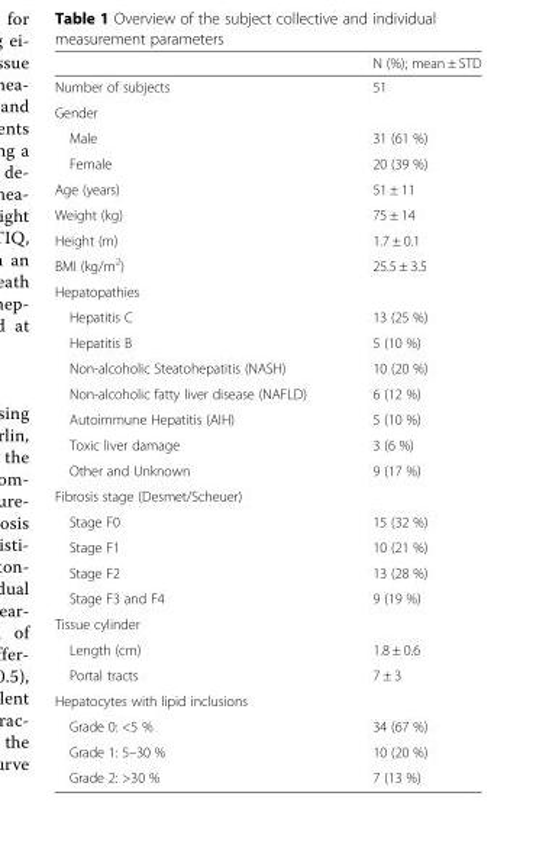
<table><thead><tr><td></td><td>N (%); mean ± STD</td></tr></thead><tbody><tr><td>Number of subjects</td><td>51</td></tr><tr><td colspan="2">Gender</td></tr><tr><td>Male</td><td>31 (61 %)</td></tr><tr><td>Female</td><td>20 (39 %)</td></tr><tr><td>Age (years)</td><td>51 ± 11</td></tr><tr><td>Weight (kg)</td><td>75 ± 14</td></tr><tr><td>Height (m)</td><td>1.7 ± 0.1</td></tr><tr><td>BMI (kg/m<sup>2</sup>)</td><td>25.5 ± 3.5</td></tr><tr><td colspan="2">Hepatopathies</td></tr><tr><td>Hepatitis C</td><td>13 (25 %)</td></tr><tr><td>Hepatitis B</td><td>5 (10 %)</td></tr><tr><td>Non-alcoholic Steatohepatitis (NASH)</td><td>10 (20 %)</td></tr><tr><td>Non-alcoholic fatty liver disease (NAFLD)</td><td>6 (12 %)</td></tr><tr><td>Autoimmune Hepatitis (AIH)</td><td>5 (10 %)</td></tr><tr><td>Toxic liver damage</td><td>3 (6 %)</td></tr><tr><td>Other and Unknown</td><td>9 (17 %)</td></tr><tr><td colspan="2">Fibrosis stage (Desmet/Scheuer)</td></tr><tr><td>Stage F0</td><td>15 (32 %)</td></tr><tr><td>Stage F1</td><td>10 (21 %)</td></tr><tr><td>Stage F2</td><td>13 (28 %)</td></tr><tr><td>Stage F3 and F4</td><td>9 (19 %)</td></tr><tr><td colspan="2">Tissue cylinder</td></tr><tr><td>Length (cm)</td><td>1.8 ± 0.6</td></tr><tr><td>Portal tracts</td><td>7 ± 3</td></tr><tr><td colspan="2">Hepatocytes with lipid inclusions</td></tr><tr><td>Grade 0: &lt;5 %</td><td>34 (67 %)</td></tr><tr><td>Grade 1: 5–30 %</td><td>10 (20 %)</td></tr><tr><td>Grade 2: &gt;30 %</td><td>7 (13 %)</td></tr></tbody></table>